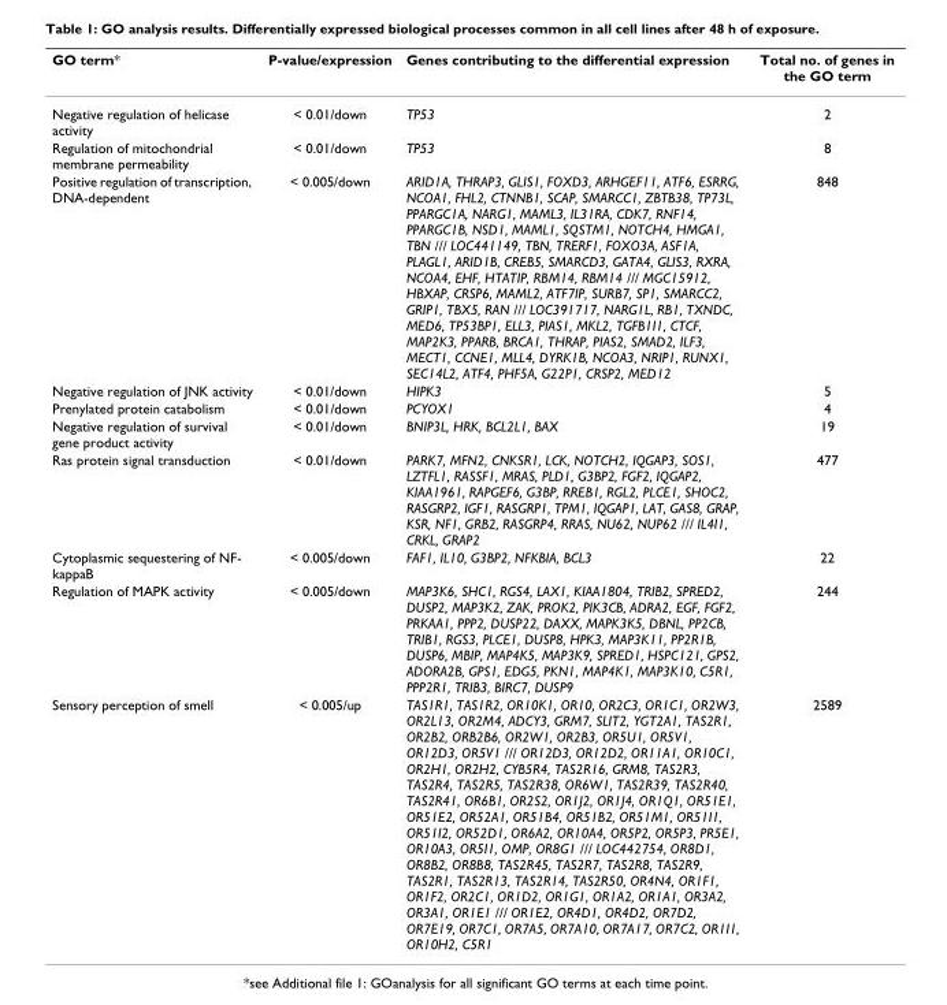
<table><thead><tr><td>GO term*</td><td>P-value/expression</td><td>Genes contributing to the differential expression</td><td>Total no. of genes in the GO term</td></tr></thead><tbody><tr><td>Negative regulation of helicase activity</td><td>&lt; 0.01/down</td><td>TP53</td><td>2</td></tr><tr><td>Regulation of mitochondrial membrane permeability</td><td>&lt; 0.01/down</td><td>TP53</td><td>8</td></tr><tr><td>Positive regulation of transcription, DNA-dependent</td><td>&lt; 0.005/down</td><td>ARID1A, THRAP3, GLIS1, FOXD3, ARHGEF11, ATF6, ESRRG, NCOA1, FHL2, CTNNB1, SCAP, SMARCC1, ZBTB38, TP73L, PPARGC1A, NARG1, MAML3, IL31RA, CDK7, RNF14, PPARGC1B, NSD1, MAML1, SQSTM1, NOTCH4, HMGA1, TBN /// LOC441149, TBN, TRERF1, FOXO3A, ASF1A, PLAGL1, ARID1B, CREB5, SMARCD3, GATA4, GLIS3, RXRA, NCOA4, EHF, HTATIP, RBM14, RBM14 /// MGC15912, HBXAP, CRSP6, MAML2, ATF7IP, SURB7, SP1, SMARCC2, GRIP1, TBX5, RAN /// LOC391717, NARG1L, RB1, TXNDC, MED6, TP53BP1, ELL3, PIAS1, MKL2, TGFB1I1, CTCF, MAP2K3, PPARB, BRCA1, THRAP, PIAS2, SMAD2, ILF3, MECT1, CCNE1, MLL4, DYRK1B, NCOA3, NRIP1, RUNX1, SEC14L2, ATF4, PHF5A, G22P1, CRSP2, MED12</td><td>848</td></tr><tr><td>Negative regulation of JNK activity</td><td>&lt; 0.01/down</td><td>HIPK3</td><td>5</td></tr><tr><td>Prenylated protein catabolism</td><td>&lt; 0.01/down</td><td>PCYOX1</td><td>4</td></tr><tr><td>Negative regulation of survival gene product activity</td><td>&lt; 0.01/down</td><td>BNIP3L, HRK, BCL2L1, BAX</td><td>19</td></tr><tr><td>Ras protein signal transduction</td><td>&lt; 0.01/down</td><td>PARK7, MFN2, CNKSR1, LCK, NOTCH2, IQGAP3, SOS1, LZTFL1, RASSF1, MRAS, PLD1, G3BP2, FGF2, IQGAP2, KIAA1961, RAPGEF6, G3BP, RREB1, RGL2, PLCE1, SHOC2, RASGRP2, IGF1, RASGRP1, TPM1, IQGAP1, LAT, GAS8, GRAP, KSR, NF1, GRB2, RASGRP4, RRAS, NU62, NUP62 /// IL4I1, CRKL, GRAP2</td><td>477</td></tr><tr><td>Cytoplasmic sequestering of NF- kappaB</td><td>&lt; 0.005/down</td><td>FAF1, IL10, G3BP2, NFKBIA, BCL3</td><td>22</td></tr><tr><td>Regulation of MAPK activity</td><td>&lt; 0.005/down</td><td>MAP3K6, SHC1, RGS4, LAX1, KIAA1804, TRIB2, SPRED2, DUSP2, MAP3K2, ZAK, PROK2, PIK3CB, ADRA2, EGF, FGF2, PRKAA1, PPP2, DUSP22, DAXX, MAPK3K5, DBNL, PP2CB, TRIB1, RGS3, PLCE1, DUSP8, HPK3, MAP3K11, PP2R1B, DUSP6, MBIP, MAP4K5, MAP3K9, SPRED1, HSPC121, GPS2, ADORA2B, GPS1, EDG5, PKN1, MAP4K1, MAP3K10, C5R1, PPP2R1, TRIB3, BIRC7, DUSP9</td><td>244</td></tr><tr><td>Sensory perception of smell</td><td>&lt; 0.005/up</td><td>TAS1R1, TAS1R2, OR10K1, OR10, OR2C3, OR1C1, OR2W3, OR2L13, OR2M4, ADCY3, GRM7, SLIT2, YGT2A1, TAS2R1, OR2B2, ORB2B6, OR2W1, OR2B3, OR5U1, OR5V1, OR12D3, OR5V1 /// OR12D3, OR12D2, OR11A1, OR10C1, OR2H1, OR2H2, CYB5R4, TAS2R16, GRM8, TAS2R3, TAS2R4, TAS2R5, TAS2R38, OR6W1, TAS2R39, TAS2R40, TAS2R41, OR6B1, OR2S2, OR1J2, OR1J4, OR1Q1, OR51E1, OR51E2, OR52A1, OR51B4, OR51B2, OR51M1, OR51I1, OR51I2, OR52D1, OR6A2, OR10A4, OR5P2, OR5P3, PR5E1, OR10A3, OR5I1, OMP, OR8G1 /// LOC442754, OR8D1, OR8B2, OR8B8, TAS2R45, TAS2R7, TAS2R8, TAS2R9, TAS2R1, TAS2R13, TAS2R14, TAS2R50, OR4N4, OR1F1, OR1F2, OR2C1, OR1D2, OR1G1, OR1A2, OR1A1, OR3A2, OR3A1, OR1E1 /// OR1E2, OR4D1, OR4D2, OR7D2, OR7E19, OR7C1, OR7A5, OR7A10, OR7A17, OR7C2, OR1I1, OR10H2, C5R1</td><td>2589</td></tr></tbody></table>